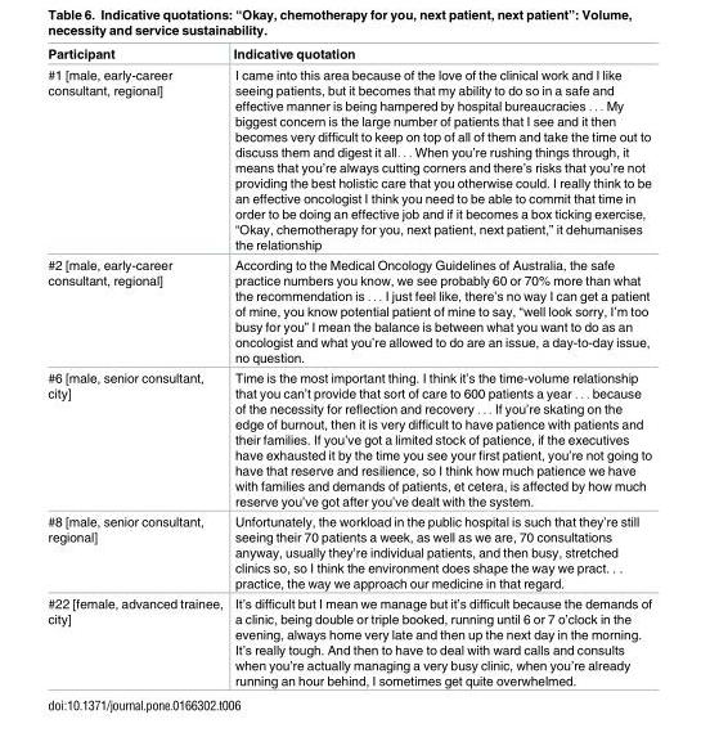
<table><thead><tr><td>Participant</td><td>Indicative quotation</td></tr></thead><tbody><tr><td>#1 [male, early-career consultant, regional]</td><td>I came into this area because of the love of the clinical work and I like seeing patients, but it becomes that my ability to do so in a safe and effective manner is being hampered by hospital bureaucracies . . . My biggest concern is the large number of patients that I see and it then becomes very difficult to keep on top of all of them and take the time out to discuss them and digest it all. . . When you’re rushing things through, it means that you’re always cutting corners and there’s risks that you’re not providing the best holistic care that you otherwise could. I really think to be an effective oncologist I think you need to be able to commit that time in order to be doing an effective job and if it becomes a box ticking exercise, “Okay, chemotherapy for you, next patient, next patient,” it dehumanises the relationship</td></tr><tr><td>#2 [male, early-career consultant, regional]</td><td>According to the Medical Oncology Guidelines of Australia, the safe practice numbers you know, we see probably 60 or 70% more than what the recommendation is . . . I just feel like, there’s no way I can get a patient of mine, you know potential patient of mine to say, “well look sorry, I’m too busy for you” I mean the balance is between what you want to do as an oncologist and what you’re allowed to do are an issue, a day-to-day issue, no question.</td></tr><tr><td>#6 [male, senior consultant, city]</td><td>Time is the most important thing. I think it’s the time-volume relationship that you can’t provide that sort of care to 600 patients a year . . . because of the necessity for reflection and recovery . . . If you’re skating on the edge of burnout, then it is very difficult to have patience with patients and their families. If you’ve got a limited stock of patience, if the executives have exhausted it by the time you see your first patient, you’re not going to have that reserve and resilience, so I think how much patience we have with families and demands of patients, et cetera, is affected by how much reserve you’ve got after you’ve dealt with the system.</td></tr><tr><td>#8 [male, senior consultant, regional]</td><td>Unfortunately, the workload in the public hospital is such that they’re still seeing their 70 patients a week, as well as we are, 70 consultations anyway, usually they’re individual patients, and then busy, stretched clinics so, so I think the environment does shape the way we pract. . . practice, the way we approach our medicine in that regard.</td></tr><tr><td>#22 [female, advanced trainee, city]</td><td>It’s difficult but I mean we manage but it’s difficult because the demands of a clinic, being double or triple booked, running until 6 or 7 o’clock in the evening, always home very late and then up the next day in the morning. It’s really tough. And then to have to deal with ward calls and consults when you’re actually managing a very busy clinic, when you’re already running an hour behind, I sometimes get quite overwhelmed.</td></tr></tbody></table>